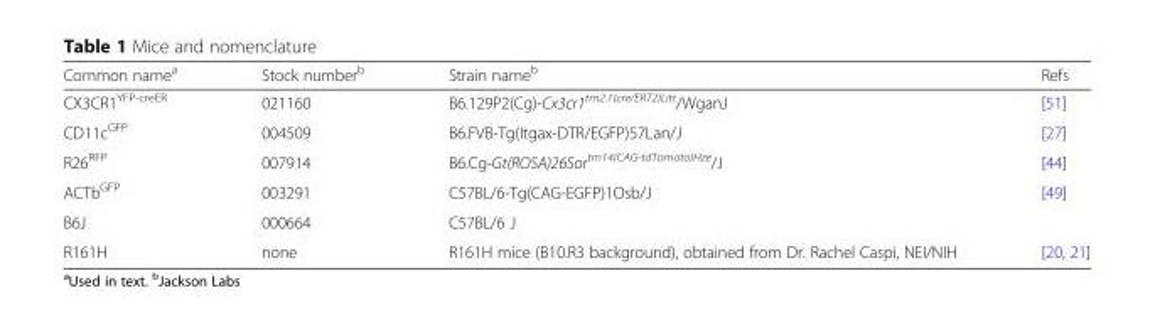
<table><thead><tr><td>Common name<sup>a</sup></td><td>Stock number<sup>b</sup></td><td>Strain name<sup>b</sup></td><td>Refs</td></tr></thead><tbody><tr><td>CX3CR1<sup>YFP-creER</sup></td><td>021160</td><td>B6.129P2(Cg)-Cx3cr1<sup>tm2.1(cre/ERT2)Litt</sup>/WganJ</td><td>[51]</td></tr><tr><td>CD11c<sup>GFP</sup></td><td>004509</td><td>B6.FVB-Tg(Itgax-DTR/EGFP)57Lan/J</td><td>[27]</td></tr><tr><td>R26<sup>RFP</sup></td><td>007914</td><td>B6.Cg-Gt(ROSA)26Sor<sup>tm14(CAG-tdTomato)Hze</sup>/J</td><td>[44]</td></tr><tr><td>ACTb<sup>GFP</sup></td><td>003291</td><td>C57BL/6-Tg(CAG-EGFP)1Osb/J</td><td>[49]</td></tr><tr><td>B6J</td><td>000664</td><td>C57BL/6 J</td><td></td></tr><tr><td>R161H</td><td>none</td><td>R161H mice (B10.R3 background), obtained from Dr. Rachel Caspi, NEI/NIH</td><td>[20, 21]</td></tr></tbody></table>